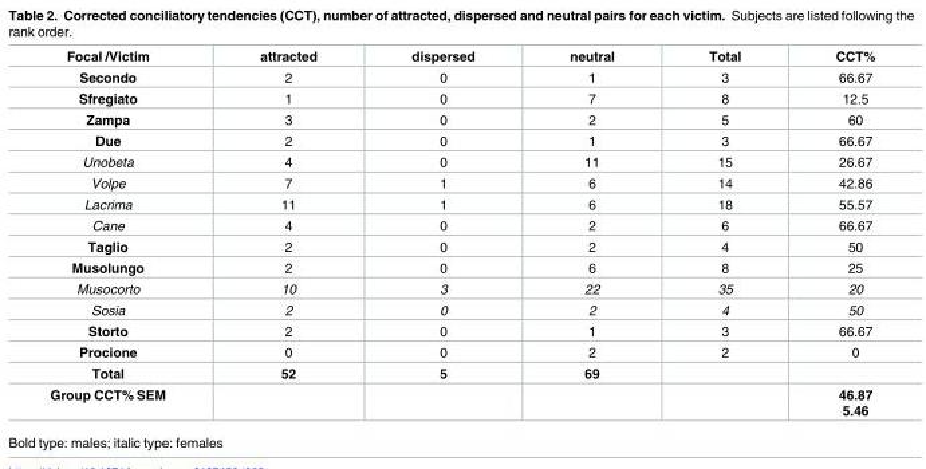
<table><thead><tr><td>Focal /Victim</td><td>attracted</td><td>dispersed</td><td>neutral</td><td>Total</td><td>CCT%</td></tr></thead><tbody><tr><td>Secondo</td><td>2</td><td>0</td><td>1</td><td>3</td><td>66.67</td></tr><tr><td>Sfregiato</td><td>1</td><td>0</td><td>7</td><td>8</td><td>12.5</td></tr><tr><td>Zampa</td><td>3</td><td>0</td><td>2</td><td>5</td><td>60</td></tr><tr><td>Due</td><td>2</td><td>0</td><td>1</td><td>3</td><td>66.67</td></tr><tr><td>Unobeta</td><td>4</td><td>0</td><td>11</td><td>15</td><td>26.67</td></tr><tr><td>Volpe</td><td>7</td><td>1</td><td>6</td><td>14</td><td>42.86</td></tr><tr><td>Lacrima</td><td>11</td><td>1</td><td>6</td><td>18</td><td>55.57</td></tr><tr><td>Cane</td><td>4</td><td>0</td><td>2</td><td>6</td><td>66.67</td></tr><tr><td>Taglio</td><td>2</td><td>0</td><td>2</td><td>4</td><td>50</td></tr><tr><td>Musolungo</td><td>2</td><td>0</td><td>6</td><td>8</td><td>25</td></tr><tr><td>Musocorto</td><td>10</td><td>3</td><td>22</td><td>35</td><td>20</td></tr><tr><td>Sosia</td><td>2</td><td>0</td><td>2</td><td>4</td><td>50</td></tr><tr><td>Storto</td><td>2</td><td>0</td><td>1</td><td>3</td><td>66.67</td></tr><tr><td>Procione</td><td>0</td><td>0</td><td>2</td><td>2</td><td>0</td></tr><tr><td>Total</td><td>52</td><td>5</td><td>69</td><td></td><td></td></tr><tr><td>Group CCT% SEM</td><td></td><td></td><td></td><td></td><td>46.87 5.46</td></tr></tbody></table>